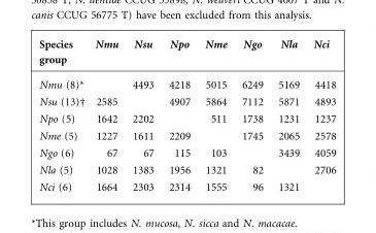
<table><thead><tr><td>Species group</td><td>Nmu</td><td>Nsu</td><td>Npo</td><td>Nme</td><td>Ngo</td><td>Nla</td><td>Nci</td></tr></thead><tbody><tr><td>Nmu (8)*</td><td></td><td>4493</td><td>4218</td><td>5015</td><td>6249</td><td>5169</td><td>4418</td></tr><tr><td>Nsu (13)†</td><td>2585</td><td></td><td>4907</td><td>5864</td><td>7112</td><td>5871</td><td>4893</td></tr><tr><td>Npo (5)</td><td>1642</td><td>2202</td><td></td><td>511</td><td>1738</td><td>1231</td><td>1237</td></tr><tr><td>Nme (5)</td><td>1227</td><td>1611</td><td>2209</td><td></td><td>1745</td><td>2065</td><td>2578</td></tr><tr><td>Ngo (6)</td><td>67</td><td>67</td><td>115</td><td>103</td><td></td><td>3439</td><td>4059</td></tr><tr><td>Nla (5)</td><td>1028</td><td>1383</td><td>1956</td><td>1321</td><td>82</td><td></td><td>2706</td></tr><tr><td>Nci (6)</td><td>1664</td><td>2303</td><td>2314</td><td>1555</td><td>96</td><td>1321</td><td></td></tr></tbody></table>